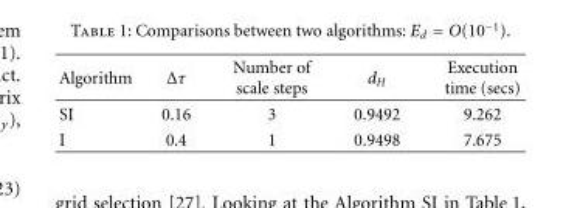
<table><thead><tr><td>Algorithm</td><td>Δτ</td><td>Number of scale steps</td><td>d<sub>H</sub></td><td>Execution time (secs)</td></tr></thead><tbody><tr><td>SI</td><td>0.16</td><td>3</td><td>0.9492</td><td>9.262</td></tr><tr><td>I</td><td>0.4</td><td>1</td><td>0.9498</td><td>7.675</td></tr></tbody></table>